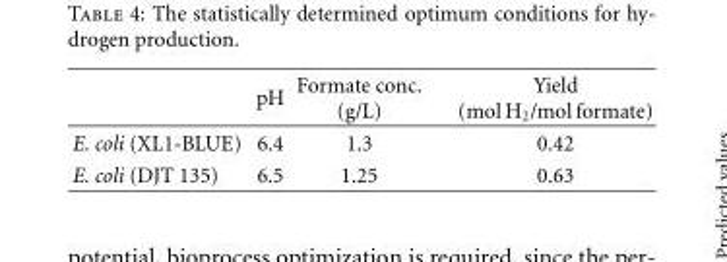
<table><thead><tr><td></td><td>pH</td><td>Formate conc. (g/L)</td><td>Yield (mol H<sub>2</sub>/mol formate)</td></tr></thead><tbody><tr><td>E. coli (XL1-BLUE)</td><td>6.4</td><td>1.3</td><td>0.42</td></tr><tr><td>E. coli (DJT 135)</td><td>6.5</td><td>1.25</td><td>0.63</td></tr></tbody></table>